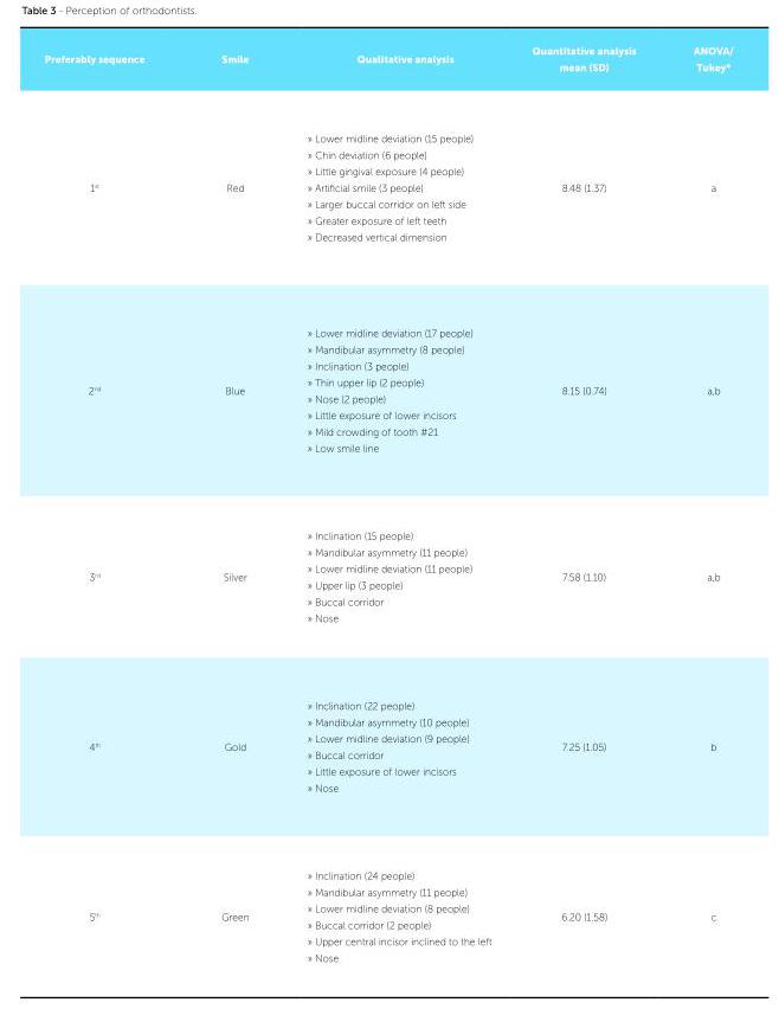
<table><thead><tr><td>Preferably sequence</td><td>Smile</td><td>Qualitative analysis</td><td>Quantitative analysis mean (SD)</td><td>ANOVA/ Tukey*</td></tr></thead><tbody><tr><td>1<sup>st</sup></td><td>Red</td><td>» Lower midline deviation (15 people) » Chin deviation (6 people) » Little gingival exposure (4 people) » Artificial smile (3 people) » Larger buccal corridor on left side » Greater exposure of left teeth » Decreased vertical dimension</td><td>8.48 (1.37)</td><td>a</td></tr><tr><td>2<sup>nd</sup></td><td>Blue</td><td>» Lower midline deviation (17 people) » Mandibular asymmetry (8 people) » Inclination (3 people) » Thin upper lip (2 people) » Nose (2 people) » Little exposure of lower incisors » Mild crowding of tooth #21 » Low smile line</td><td>8.15 (0.74)</td><td>a,b</td></tr><tr><td>3<sup>rd</sup></td><td>Silver</td><td>» Inclination (15 people) » Mandibular asymmetry (11 people) » Lower midline deviation (11 people) » Upper lip (3 people) » Buccal corridor » Nose</td><td>7.58 (1.10)</td><td>a,b</td></tr><tr><td>4<sup>th</sup></td><td>Gold</td><td>» Inclination (22 people) » Mandibular asymmetry (10 people) » Lower midline deviation (9 people) » Buccal corridor » Little exposure of lower incisors » Nose</td><td>7.25 (1.05)</td><td>b</td></tr><tr><td>5<sup>th</sup></td><td>Green</td><td>» Inclination (24 people) » Mandibular asymmetry (11 people) » Lower midline deviation (8 people) » Buccal corridor (2 people) » Upper central incisor inclined to the left » Nose</td><td>6.20 (1.58)</td><td>c</td></tr></tbody></table>